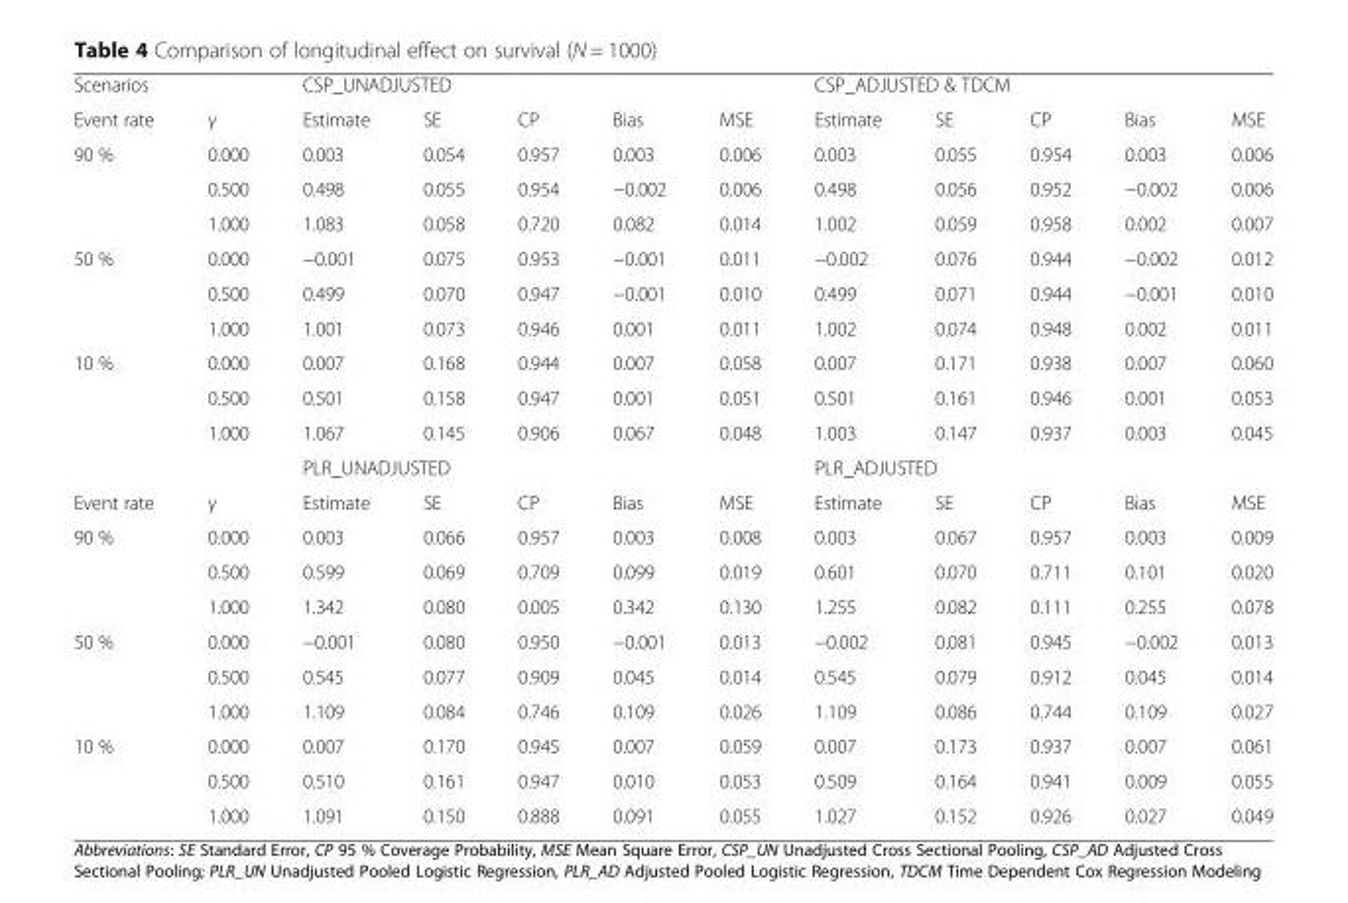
<table><tbody><tr><td colspan="2">Scenarios</td><td colspan="5">CSP_UNADJUSTED</td><td colspan="5">CSP_ADJUSTED &amp; TDCM</td></tr><tr><td>Event rate</td><td>γ</td><td>Estimate</td><td>SE</td><td>CP</td><td>Bias</td><td>MSE</td><td>Estimate</td><td>SE</td><td>CP</td><td>Bias</td><td>MSE</td></tr><tr><td rowspan="3">90 %</td><td>0.000</td><td>0.003</td><td>0.054</td><td>0.957</td><td>0.003</td><td>0.006</td><td>0.003</td><td>0.055</td><td>0.954</td><td>0.003</td><td>0.006</td></tr><tr><td>0.500</td><td>0.498</td><td>0.055</td><td>0.954</td><td>−0.002</td><td>0.006</td><td>0.498</td><td>0.056</td><td>0.952</td><td>−0.002</td><td>0.006</td></tr><tr><td>1.000</td><td>1.083</td><td>0.058</td><td>0.720</td><td>0.082</td><td>0.014</td><td>1.002</td><td>0.059</td><td>0.958</td><td>0.002</td><td>0.007</td></tr><tr><td rowspan="3">50 %</td><td>0.000</td><td>−0.001</td><td>0.075</td><td>0.953</td><td>−0.001</td><td>0.011</td><td>−0.002</td><td>0.076</td><td>0.944</td><td>−0.002</td><td>0.012</td></tr><tr><td>0.500</td><td>0.499</td><td>0.070</td><td>0.947</td><td>−0.001</td><td>0.010</td><td>0.499</td><td>0.071</td><td>0.944</td><td>−0.001</td><td>0.010</td></tr><tr><td>1.000</td><td>1.001</td><td>0.073</td><td>0.946</td><td>0.001</td><td>0.011</td><td>1.002</td><td>0.074</td><td>0.948</td><td>0.002</td><td>0.011</td></tr><tr><td rowspan="3">10 %</td><td>0.000</td><td>0.007</td><td>0.168</td><td>0.944</td><td>0.007</td><td>0.058</td><td>0.007</td><td>0.171</td><td>0.938</td><td>0.007</td><td>0.060</td></tr><tr><td>0.500</td><td>0.501</td><td>0.158</td><td>0.947</td><td>0.001</td><td>0.051</td><td>0.501</td><td>0.161</td><td>0.946</td><td>0.001</td><td>0.053</td></tr><tr><td>1.000</td><td>1.067</td><td>0.145</td><td>0.906</td><td>0.067</td><td>0.048</td><td>1.003</td><td>0.147</td><td>0.937</td><td>0.003</td><td>0.045</td></tr><tr><td colspan="2"></td><td colspan="5">PLR_UNADJUSTED</td><td colspan="5">PLR_ADJUSTED</td></tr><tr><td>Event rate</td><td>γ</td><td>Estimate</td><td>SE</td><td>CP</td><td>Bias</td><td>MSE</td><td>Estimate</td><td>SE</td><td>CP</td><td>Bias</td><td>MSE</td></tr><tr><td rowspan="3">90 %</td><td>0.000</td><td>0.003</td><td>0.066</td><td>0.957</td><td>0.003</td><td>0.008</td><td>0.003</td><td>0.067</td><td>0.957</td><td>0.003</td><td>0.009</td></tr><tr><td>0.500</td><td>0.599</td><td>0.069</td><td>0.709</td><td>0.099</td><td>0.019</td><td>0.601</td><td>0.070</td><td>0.711</td><td>0.101</td><td>0.020</td></tr><tr><td>1.000</td><td>1.342</td><td>0.080</td><td>0.005</td><td>0.342</td><td>0.130</td><td>1.255</td><td>0.082</td><td>0.111</td><td>0.255</td><td>0.078</td></tr><tr><td rowspan="3">50 %</td><td>0.000</td><td>−0.001</td><td>0.080</td><td>0.950</td><td>−0.001</td><td>0.013</td><td>−0.002</td><td>0.081</td><td>0.945</td><td>−0.002</td><td>0.013</td></tr><tr><td>0.500</td><td>0.545</td><td>0.077</td><td>0.909</td><td>0.045</td><td>0.014</td><td>0.545</td><td>0.079</td><td>0.912</td><td>0.045</td><td>0.014</td></tr><tr><td>1.000</td><td>1.109</td><td>0.084</td><td>0.746</td><td>0.109</td><td>0.026</td><td>1.109</td><td>0.086</td><td>0.744</td><td>0.109</td><td>0.027</td></tr><tr><td rowspan="3">10 %</td><td>0.000</td><td>0.007</td><td>0.170</td><td>0.945</td><td>0.007</td><td>0.059</td><td>0.007</td><td>0.173</td><td>0.937</td><td>0.007</td><td>0.061</td></tr><tr><td>0.500</td><td>0.510</td><td>0.161</td><td>0.947</td><td>0.010</td><td>0.053</td><td>0.509</td><td>0.164</td><td>0.941</td><td>0.009</td><td>0.055</td></tr><tr><td>1.000</td><td>1.091</td><td>0.150</td><td>0.888</td><td>0.091</td><td>0.055</td><td>1.027</td><td>0.152</td><td>0.926</td><td>0.027</td><td>0.049</td></tr></tbody></table>